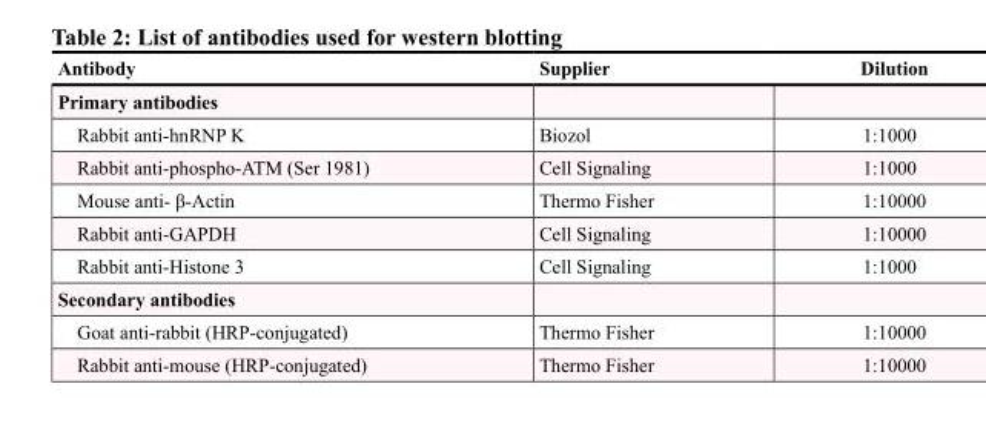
<table><thead><tr><td>Antibody</td><td>Supplier</td><td>Dilution</td></tr></thead><tbody><tr><td colspan="3">Primary antibodies</td></tr><tr><td>Rabbit anti-hnRNP K</td><td>Biozol</td><td>1:1000</td></tr><tr><td>Rabbit anti-phospho-ATM (Ser 1981)</td><td>Cell Signaling</td><td>1:1000</td></tr><tr><td>Mouse anti- β-Actin</td><td>Thermo Fisher</td><td>1:10000</td></tr><tr><td>Rabbit anti-GAPDH</td><td>Cell Signaling</td><td>1:10000</td></tr><tr><td>Rabbit anti-Histone 3</td><td>Cell Signaling</td><td>1:1000</td></tr><tr><td colspan="3">Secondary antibodies</td></tr><tr><td>Goat anti-rabbit (HRP-conjugated)</td><td>Thermo Fisher</td><td>1:10000</td></tr><tr><td>Rabbit anti-mouse (HRP-conjugated)</td><td>Thermo Fisher</td><td>1:10000</td></tr></tbody></table>